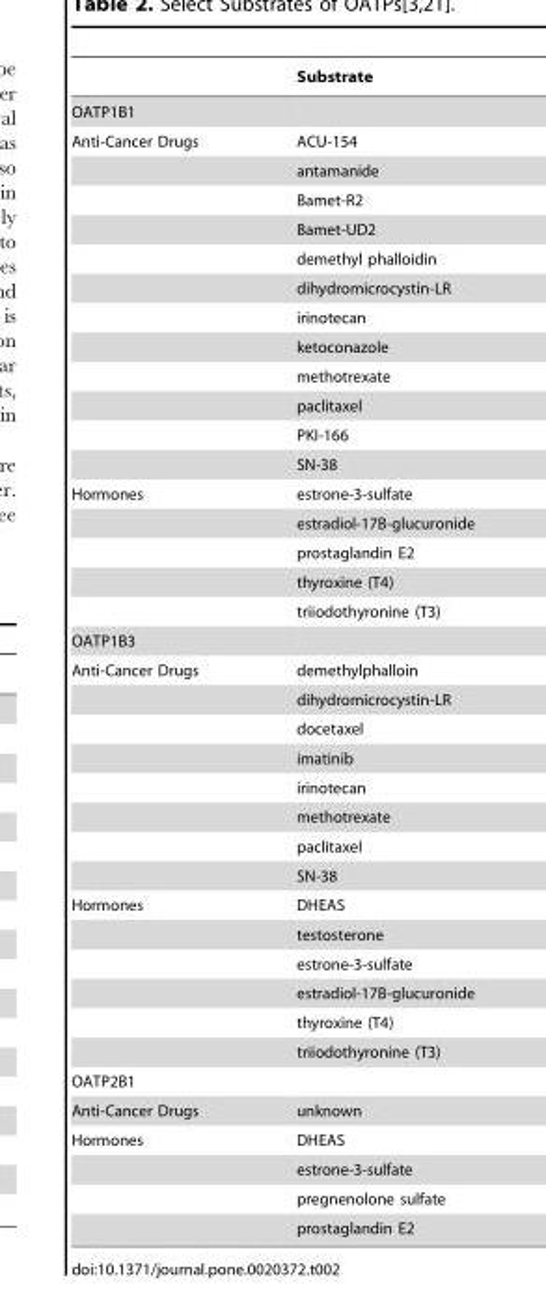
<table><thead><tr><td></td><td>Substrate</td></tr></thead><tbody><tr><td colspan="2">OATP1B1</td></tr><tr><td rowspan="12">Anti-Cancer Drugs</td><td>ACU-154</td></tr><tr><td>antamanide</td></tr><tr><td>Bamet-R2</td></tr><tr><td>Bamet-UD2</td></tr><tr><td>demethyl phalloidin</td></tr><tr><td>dihydromicrocystin-LR</td></tr><tr><td>irinotecan</td></tr><tr><td>ketoconazole</td></tr><tr><td>methotrexate</td></tr><tr><td>paclitaxel</td></tr><tr><td>PKI-166</td></tr><tr><td>SN-38</td></tr><tr><td rowspan="5">Hormones</td><td>estrone-3-sulfate</td></tr><tr><td>estradiol-17B-glucuronide</td></tr><tr><td>prostaglandin E2</td></tr><tr><td>thyroxine (T4)</td></tr><tr><td>triiodothyronine (T3)</td></tr><tr><td colspan="2">OATP1B3</td></tr><tr><td rowspan="8">Anti-Cancer Drugs</td><td>demethylphalloin</td></tr><tr><td>dihydromicrocystin-LR</td></tr><tr><td>docetaxel</td></tr><tr><td>imatinib</td></tr><tr><td>irinotecan</td></tr><tr><td>methotrexate</td></tr><tr><td>paclitaxel</td></tr><tr><td>SN-38</td></tr><tr><td rowspan="6">Hormones</td><td>DHEAS</td></tr><tr><td>testosterone</td></tr><tr><td>estrone-3-sulfate</td></tr><tr><td>estradiol-17B-glucuronide</td></tr><tr><td>thyroxine (T4)</td></tr><tr><td>triiodothyronine (T3)</td></tr><tr><td colspan="2">OATP2B1</td></tr><tr><td>Anti-Cancer Drugs</td><td>unknown</td></tr><tr><td rowspan="4">Hormones</td><td>DHEAS</td></tr><tr><td>estrone-3-sulfate</td></tr><tr><td>pregnenolone sulfate</td></tr><tr><td>prostaglandin E2</td></tr></tbody></table>